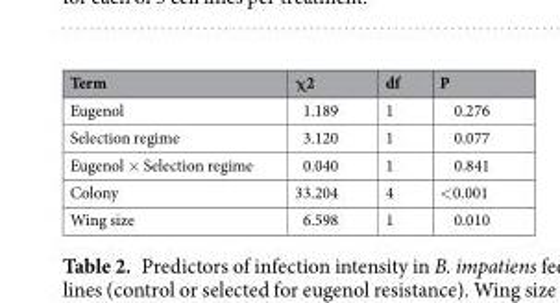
<table><thead><tr><td>Term</td><td>χ2</td><td>df</td><td>P</td></tr></thead><tbody><tr><td>Eugenol</td><td>1.189</td><td>1</td><td>0.276</td></tr><tr><td>Selection regime</td><td>3.120</td><td>1</td><td>0.077</td></tr><tr><td>Eugenol × Selection regime</td><td>0.040</td><td>1</td><td>0.841</td></tr><tr><td>Colony</td><td>33.204</td><td>4</td><td>&lt;0.001</td></tr><tr><td>Wing size</td><td>6.598</td><td>1</td><td>0.010</td></tr></tbody></table>